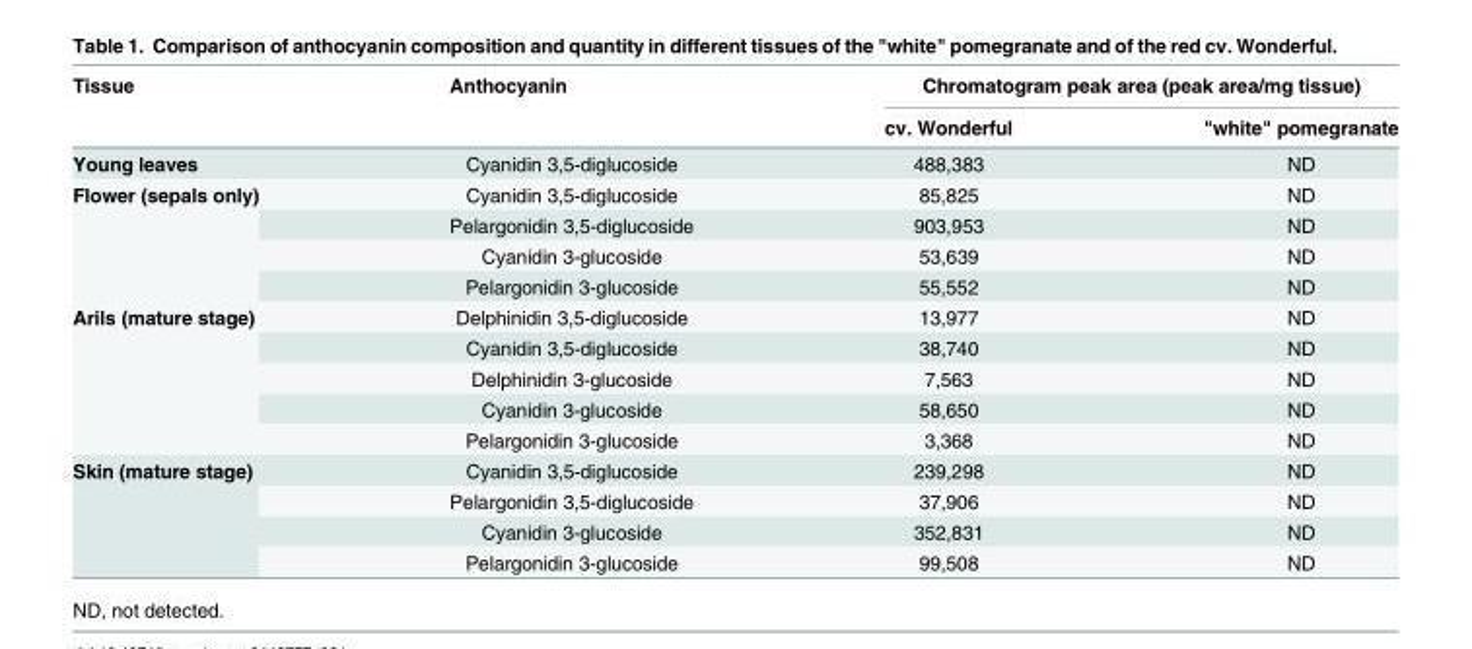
<table><thead><tr><td rowspan="2">Tissue</td><td rowspan="2">Anthocyanin</td><td colspan="2">Chromatogram peak area (peak area/mg tissue)</td></tr><tr><td>cv. Wonderful</td><td>&quot;white&quot; pomegranate</td></tr></thead><tbody><tr><td>Young leaves</td><td>Cyanidin 3,5-diglucoside</td><td>488,383</td><td>ND</td></tr><tr><td rowspan="4">Flower (sepals only)</td><td>Cyanidin 3,5-diglucoside</td><td>85,825</td><td>ND</td></tr><tr><td>Pelargonidin 3,5-diglucoside</td><td>903,953</td><td>ND</td></tr><tr><td>Cyanidin 3-glucoside</td><td>53,639</td><td>ND</td></tr><tr><td>Pelargonidin 3-glucoside</td><td>55,552</td><td>ND</td></tr><tr><td rowspan="5">Arils (mature stage)</td><td>Delphinidin 3,5-diglucoside</td><td>13,977</td><td>ND</td></tr><tr><td>Cyanidin 3,5-diglucoside</td><td>38,740</td><td>ND</td></tr><tr><td>Delphinidin 3-glucoside</td><td>7,563</td><td>ND</td></tr><tr><td>Cyanidin 3-glucoside</td><td>58,650</td><td>ND</td></tr><tr><td>Pelargonidin 3-glucoside</td><td>3,368</td><td>ND</td></tr><tr><td rowspan="4">Skin (mature stage)</td><td>Cyanidin 3,5-diglucoside</td><td>239,298</td><td>ND</td></tr><tr><td>Pelargonidin 3,5-diglucoside</td><td>37,906</td><td>ND</td></tr><tr><td>Cyanidin 3-glucoside</td><td>352,831</td><td>ND</td></tr><tr><td>Pelargonidin 3-glucoside</td><td>99,508</td><td>ND</td></tr></tbody></table>